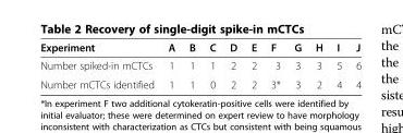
<table><thead><tr><td>Experiment</td><td>A</td><td>B</td><td>C</td><td>D</td><td>E</td><td>F</td><td>G</td><td>H</td><td>I</td><td>J</td></tr></thead><tbody><tr><td>Number spiked-in mCTCs</td><td>1</td><td>1</td><td>1</td><td>2</td><td>2</td><td>3</td><td>3</td><td>3</td><td>5</td><td>6</td></tr><tr><td>Number mCTCs identified</td><td>1</td><td>1</td><td>0</td><td>2</td><td>2</td><td>3*</td><td>3</td><td>2</td><td>4</td><td>4</td></tr></tbody></table>